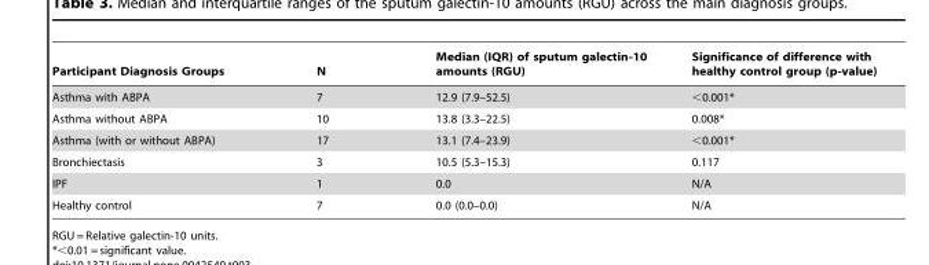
<table><thead><tr><td>Participant Diagnosis Groups</td><td>N</td><td>Median (IQR) of sputum galectin-10 amounts (RGU)</td><td>Significance of difference with healthy control group (p-value)</td></tr></thead><tbody><tr><td>Asthma with ABPA</td><td>7</td><td>12.9 (7.9–52.5)</td><td>&lt;0.001*</td></tr><tr><td>Asthma without ABPA</td><td>10</td><td>13.8 (3.3–22.5)</td><td>0.008*</td></tr><tr><td>Asthma (with or without ABPA)</td><td>17</td><td>13.1 (7.4–23.9)</td><td>&lt;0.001*</td></tr><tr><td>Bronchiectasis</td><td>3</td><td>10.5 (5.3–15.3)</td><td>0.117</td></tr><tr><td>IPF</td><td>1</td><td>0.0</td><td>N/A</td></tr><tr><td>Healthy control</td><td>7</td><td>0.0 (0.0–0.0)</td><td>N/A</td></tr></tbody></table>